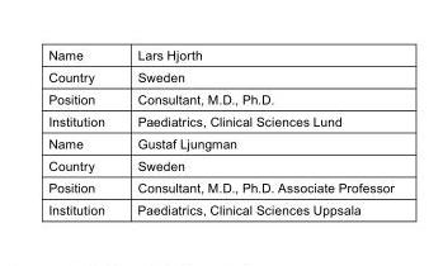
<table><tbody><tr><td>Name</td><td>Lars Hjorth</td></tr><tr><td>Country</td><td>Sweden</td></tr><tr><td>Position</td><td>Consultant, M.D., Ph.D.</td></tr><tr><td>Institution</td><td>Paediatrics, Clinical Sciences Lund</td></tr><tr><td>Name</td><td>Gustaf Ljungman</td></tr><tr><td>Country</td><td>Sweden</td></tr><tr><td>Position</td><td>Consultant, M.D., Ph.D. Associate Professor</td></tr><tr><td>Institution</td><td>Paediatrics, Clinical Sciences Uppsala</td></tr></tbody></table>